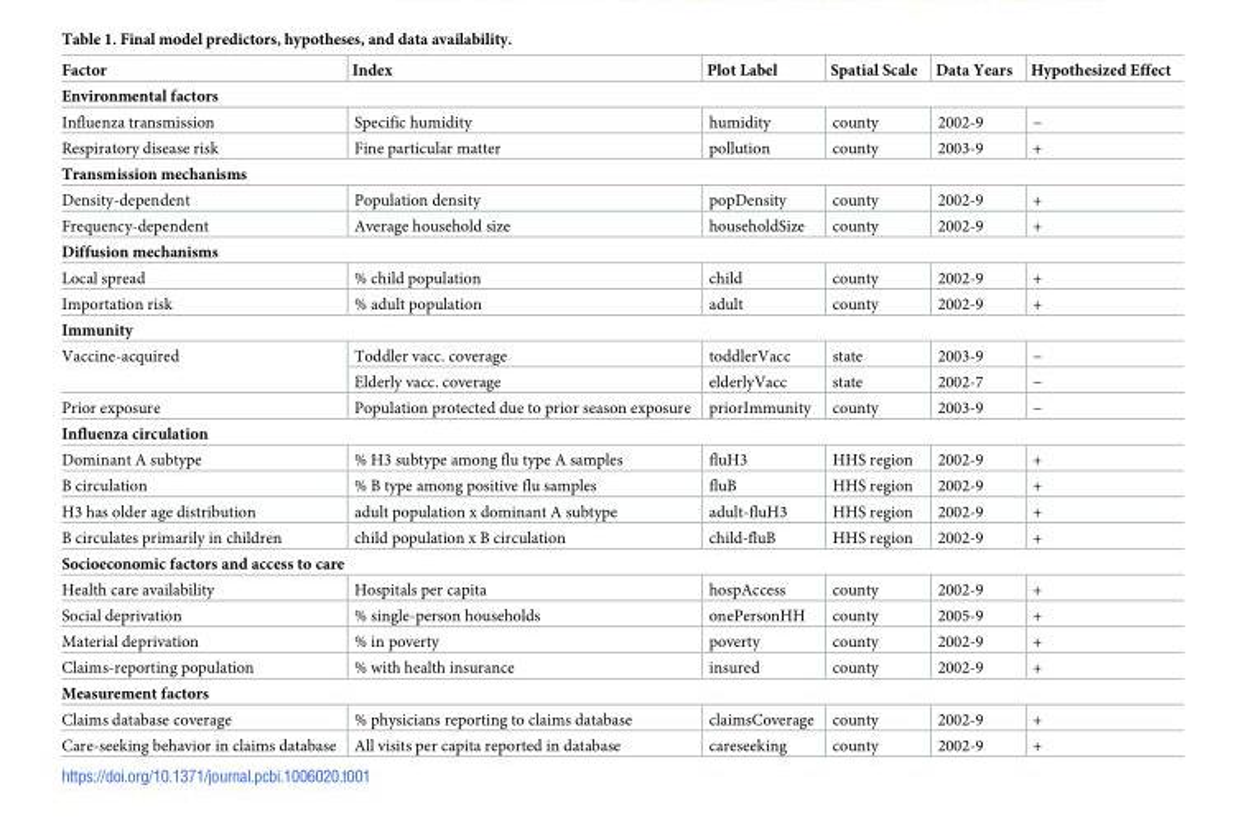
<table><thead><tr><td>Factor</td><td>Index</td><td>Plot Label</td><td>Spatial Scale</td><td>Data Years</td><td>Hypothesized Effect</td></tr></thead><tbody><tr><td colspan="6">Environmental factors</td></tr><tr><td>Influenza transmission</td><td>Specific humidity</td><td>humidity</td><td>county</td><td>2002-9</td><td>−</td></tr><tr><td>Respiratory disease risk</td><td>Fine particular matter</td><td>pollution</td><td>county</td><td>2003-9</td><td>+</td></tr><tr><td colspan="6">Transmission mechanisms</td></tr><tr><td>Density-dependent</td><td>Population density</td><td>popDensity</td><td>county</td><td>2002-9</td><td>+</td></tr><tr><td>Frequency-dependent</td><td>Average household size</td><td>householdSize</td><td>county</td><td>2002-9</td><td>+</td></tr><tr><td colspan="6">Diffusion mechanisms</td></tr><tr><td>Local spread</td><td>% child population</td><td>child</td><td>county</td><td>2002-9</td><td>+</td></tr><tr><td>Importation risk</td><td>% adult population</td><td>adult</td><td>county</td><td>2002-9</td><td>+</td></tr><tr><td colspan="6">Immunity</td></tr><tr><td rowspan="2">Vaccine-acquired</td><td>Toddler vacc. coverage</td><td>toddlerVacc</td><td>state</td><td>2003-9</td><td>−</td></tr><tr><td>Elderly vacc. coverage</td><td>elderlyVacc</td><td>state</td><td>2002-7</td><td>−</td></tr><tr><td>Prior exposure</td><td>Population protected due to prior season exposure</td><td>priorImmunity</td><td>county</td><td>2003-9</td><td>−</td></tr><tr><td colspan="6">Influenza circulation</td></tr><tr><td>Dominant A subtype</td><td>% H3 subtype among flu type A samples</td><td>fluH3</td><td>HHS region</td><td>2002-9</td><td>+</td></tr><tr><td>B circulation</td><td>% B type among positive flu samples</td><td>fluB</td><td>HHS region</td><td>2002-9</td><td>+</td></tr><tr><td>H3 has older age distribution</td><td>adult population x dominant A subtype</td><td>adult-fluH3</td><td>HHS region</td><td>2002-9</td><td>+</td></tr><tr><td>B circulates primarily in children</td><td>child population x B circulation</td><td>child-fluB</td><td>HHS region</td><td>2002-9</td><td>+</td></tr><tr><td colspan="6">Socioeconomic factors and access to care</td></tr><tr><td>Health care availability</td><td>Hospitals per capita</td><td>hospAccess</td><td>county</td><td>2002-9</td><td>+</td></tr><tr><td>Social deprivation</td><td>% single-person households</td><td>onePersonHH</td><td>county</td><td>2005-9</td><td>+</td></tr><tr><td>Material deprivation</td><td>% in poverty</td><td>poverty</td><td>county</td><td>2002-9</td><td>+</td></tr><tr><td>Claims-reporting population</td><td>% with health insurance</td><td>insured</td><td>county</td><td>2002-9</td><td>+</td></tr><tr><td colspan="6">Measurement factors</td></tr><tr><td>Claims database coverage</td><td>% physicians reporting to claims database</td><td>claimsCoverage</td><td>county</td><td>2002-9</td><td>+</td></tr><tr><td>Care-seeking behavior in claims database</td><td>All visits per capita reported in database</td><td>careseeking</td><td>county</td><td>2002-9</td><td>+</td></tr></tbody></table>